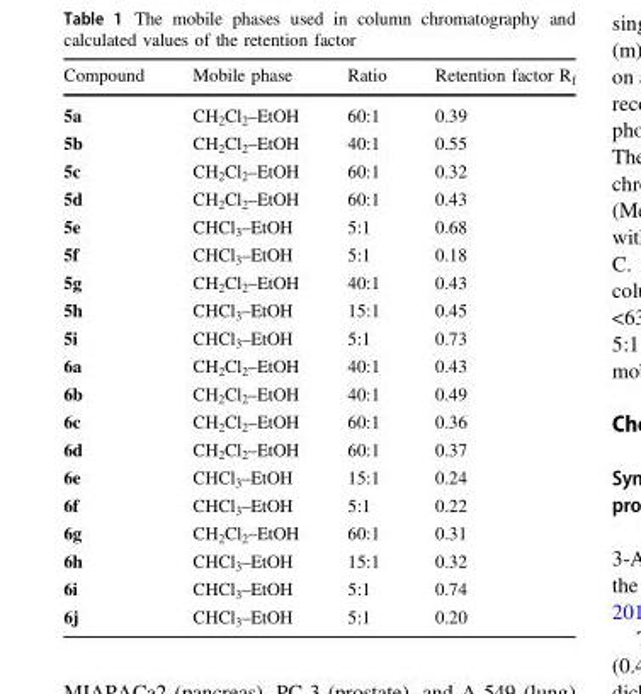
<table><thead><tr><td>Compound</td><td>Mobile phase</td><td>Ratio</td><td>Retention factor R<sub>f</sub></td></tr></thead><tbody><tr><td>5a</td><td>CH<sub>2</sub>Cl<sub>2</sub>–EtOH</td><td>60:1</td><td>0.39</td></tr><tr><td>5b</td><td>CH<sub>2</sub>Cl<sub>2</sub>–EtOH</td><td>40:1</td><td>0.55</td></tr><tr><td>5c</td><td>CH<sub>2</sub>Cl<sub>2</sub>–EtOH</td><td>60:1</td><td>0.32</td></tr><tr><td>5d</td><td>CH<sub>2</sub>Cl<sub>2</sub>–EtOH</td><td>60:1</td><td>0.43</td></tr><tr><td>5e</td><td>CHCl<sub>3</sub>–EtOH</td><td>5:1</td><td>0.68</td></tr><tr><td>5f</td><td>CHCl<sub>3</sub>–EtOH</td><td>5:1</td><td>0.18</td></tr><tr><td>5g</td><td>CH<sub>2</sub>Cl<sub>2</sub>–EtOH</td><td>40:1</td><td>0.43</td></tr><tr><td>5h</td><td>CHCl<sub>3</sub>–EtOH</td><td>15:1</td><td>0.45</td></tr><tr><td>5i</td><td>CHCl<sub>3</sub>–EtOH</td><td>5:1</td><td>0.73</td></tr><tr><td>6a</td><td>CH<sub>2</sub>Cl<sub>2</sub>–EtOH</td><td>40:1</td><td>0.43</td></tr><tr><td>6b</td><td>CH<sub>2</sub>Cl<sub>2</sub>–EtOH</td><td>40:1</td><td>0.49</td></tr><tr><td>6c</td><td>CH<sub>2</sub>Cl<sub>2</sub>–EtOH</td><td>60:1</td><td>0.36</td></tr><tr><td>6d</td><td>CH<sub>2</sub>Cl<sub>2</sub>–EtOH</td><td>60:1</td><td>0.37</td></tr><tr><td>6e</td><td>CHCl<sub>3</sub>–EtOH</td><td>15:1</td><td>0.24</td></tr><tr><td>6f</td><td>CHCl<sub>3</sub>–EtOH</td><td>5:1</td><td>0.22</td></tr><tr><td>6g</td><td>CH<sub>2</sub>Cl<sub>2</sub>–EtOH</td><td>60:1</td><td>0.31</td></tr><tr><td>6h</td><td>CHCl<sub>3</sub>–EtOH</td><td>15:1</td><td>0.32</td></tr><tr><td>6i</td><td>CHCl<sub>3</sub>–EtOH</td><td>5:1</td><td>0.74</td></tr><tr><td>6j</td><td>CHCl<sub>3</sub>–EtOH</td><td>5:1</td><td>0.20</td></tr></tbody></table>